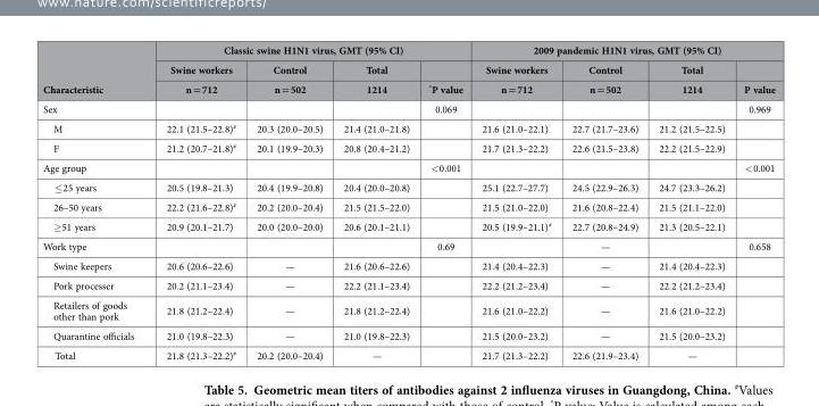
<table><thead><tr><td rowspan="3">Characteristic</td><td colspan="4">Classic swine H1N1 virus, GMT (95% CI)</td><td colspan="4">2009 pandemic H1N1 virus, GMT (95% CI)</td></tr><tr><td rowspan="2">Swine workers n = 712</td><td rowspan="2">Control n = 502</td><td rowspan="2">Total 1214</td><td rowspan="2">*P value</td><td rowspan="2">Swine workers n = 712</td><td rowspan="2">Control n = 502</td><td rowspan="2">Total 1214</td><td rowspan="2">P value</td></tr><tr></tr></thead><tbody><tr><td>Sex</td><td></td><td></td><td></td><td>0.069</td><td></td><td></td><td></td><td>0.969</td></tr><tr><td>M</td><td>22.1 (21.5–22.8)#</td><td>20.3 (20.0–20.5)</td><td>21.4 (21.0–21.8)</td><td></td><td>21.6 (21.0–22.1)</td><td>22.7 (21.7–23.6)</td><td>21.2 (21.5–22.5)</td><td></td></tr><tr><td>F</td><td>21.2 (20.7–21.8)#</td><td>20.1 (19.9–20.3)</td><td>20.8 (20.4–21.2)</td><td></td><td>21.7 (21.3–22.2)</td><td>22.6 (21.5–23.8)</td><td>22.2 (21.5–22.9)</td><td></td></tr><tr><td>Age group</td><td></td><td></td><td></td><td>&lt; 0.001</td><td></td><td></td><td></td><td>&lt; 0.001</td></tr><tr><td>≤ 25 years</td><td>20.5 (19.8–21.3)</td><td>20.4 (19.9–20.8)</td><td>20.4 (20.0–20.8)</td><td></td><td>25.1 (22.7–27.7)</td><td>24.5 (22.9–26.3)</td><td>24.7 (23.3–26.2)</td><td></td></tr><tr><td>26–50 years</td><td>22.2 (21.6–22.8)#</td><td>20.2 (20.0–20.4)</td><td>21.5 (21.5–22.0)</td><td></td><td>21.5 (21.0–22.0)</td><td>21.6 (20.8–22.4)</td><td>21.5 (21.1–22.0)</td><td></td></tr><tr><td>≥ 51 years</td><td>20.9 (20.1–21.7)</td><td>20.0 (20.0–20.0)</td><td>20.6 (20.1–21.1)</td><td></td><td>20.5 (19.9–21.1)#</td><td>22.7 (20.8–24.9)</td><td>21.3 (20.5–22.1)</td><td></td></tr><tr><td>Work type</td><td></td><td></td><td></td><td>0.69</td><td></td><td>—</td><td></td><td>0.658</td></tr><tr><td>Swine keepers</td><td>20.6 (20.6–22.6)</td><td>—</td><td>21.6 (20.6–22.6)</td><td></td><td>21.4 (20.4–22.3)</td><td>—</td><td>21.4 (20.4–22.3)</td><td></td></tr><tr><td>Pork processer</td><td>20.2 (21.1–23.4)</td><td>—</td><td>22.2 (21.1–23.4)</td><td></td><td>22.2 (21.2–23.4)</td><td>—</td><td>22.2 (21.2–23.4)</td><td></td></tr><tr><td>Retailers of goods other than pork</td><td>21.8 (21.2–22.4)</td><td>—</td><td>21.8 (21.2–22.4)</td><td></td><td>21.6 (21.0–22.2)</td><td>—</td><td>21.6 (21.0–22.2)</td><td></td></tr><tr><td>Quarantine officials</td><td>21.0 (19.8–22.3)</td><td>—</td><td>21.0 (19.8–22.3)</td><td></td><td>21.5 (20.0–23.2)</td><td>—</td><td>21.5 (20.0–23.2)</td><td></td></tr><tr><td>Total</td><td>21.8 (21.3–22.2)#</td><td>20.2 (20.0–20.4)</td><td>—</td><td></td><td>21.7 (21.3–22.2)</td><td>22.6 (21.9–23.4)</td><td>—</td><td></td></tr></tbody></table>